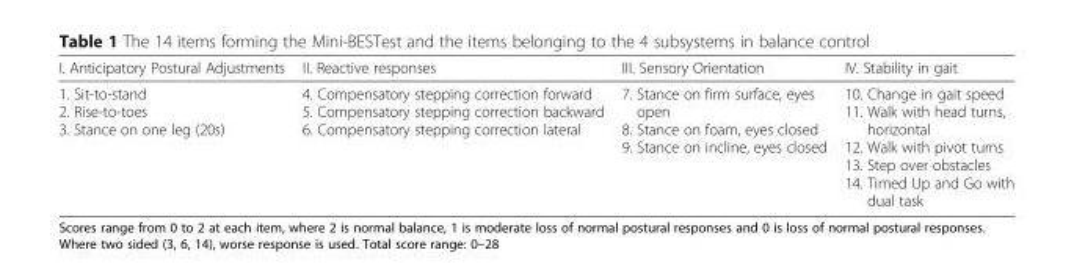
<table><thead><tr><td>I. Anticipatory Postural Adjustments</td><td>II. Reactive responses</td><td>III. Sensory Orientation</td><td>IV. Stability in gait</td></tr></thead><tbody><tr><td>1. Sit-to-stand 2. Rise-to-toes 3. Stance on one leg (20s)</td><td>4. Compensatory stepping correction forward 5. Compensatory stepping correction backward 6. Compensatory stepping correction lateral</td><td>7. Stance on firm surface, eyes open 8. Stance on foam, eyes closed 9. Stance on incline, eyes closed</td><td>10. Change in gait speed 11. Walk with head turns, horizontal 12. Walk with pivot turns 13. Step over obstacles 14. Timed Up and Go with dual task</td></tr></tbody></table>